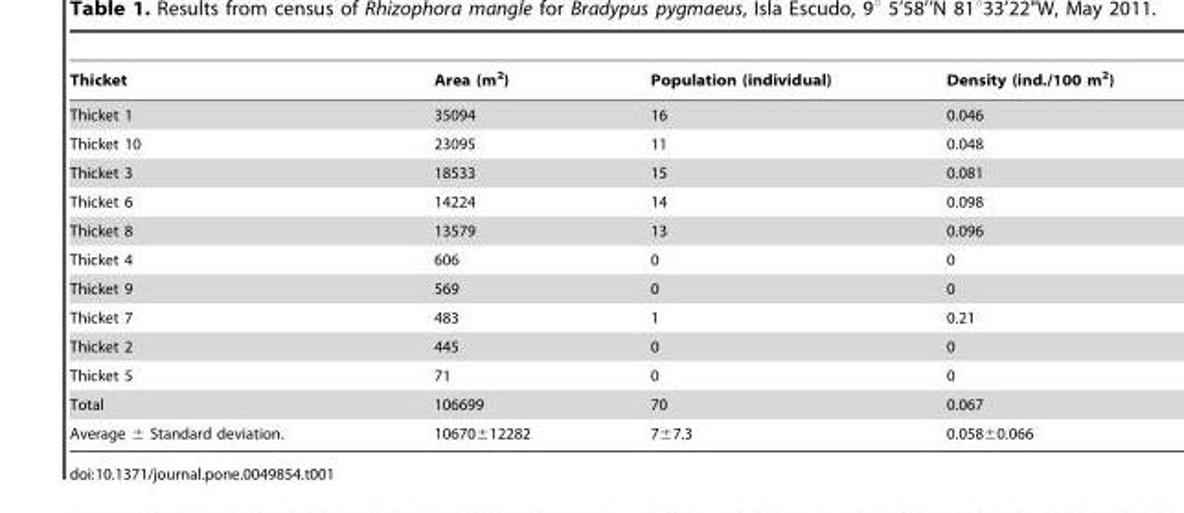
<table><thead><tr><td>Thicket</td><td>Area (m<sup>2</sup>)</td><td>Population (individual)</td><td>Density (ind./100 m<sup>2</sup>)</td></tr></thead><tbody><tr><td>Thicket 1</td><td>35094</td><td>16</td><td>0.046</td></tr><tr><td>Thicket 10</td><td>23095</td><td>11</td><td>0.048</td></tr><tr><td>Thicket 3</td><td>18533</td><td>15</td><td>0.081</td></tr><tr><td>Thicket 6</td><td>14224</td><td>14</td><td>0.098</td></tr><tr><td>Thicket 8</td><td>13579</td><td>13</td><td>0.096</td></tr><tr><td>Thicket 4</td><td>606</td><td>0</td><td>0</td></tr><tr><td>Thicket 9</td><td>569</td><td>0</td><td>0</td></tr><tr><td>Thicket 7</td><td>483</td><td>1</td><td>0.21</td></tr><tr><td>Thicket 2</td><td>445</td><td>0</td><td>0</td></tr><tr><td>Thicket 5</td><td>71</td><td>0</td><td>0</td></tr><tr><td>Total</td><td>106699</td><td>70</td><td>0.067</td></tr><tr><td>Average ± Standard deviation.</td><td>10670±12282</td><td>7±7.3</td><td>0.058±0.066</td></tr></tbody></table>